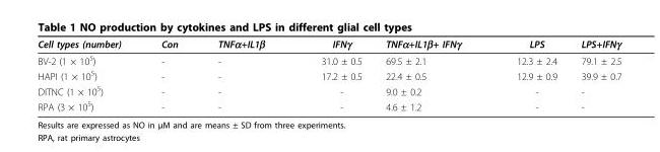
<table><thead><tr><td>Cell types (number)</td><td>Con</td><td>TNFα+IL1β</td><td>IFNγ</td><td>TNFα+IL1β+ IFNγ</td><td>LPS</td><td>LPS+IFNγ</td></tr></thead><tbody><tr><td>BV-2 (1 × 10<sup>5</sup>)</td><td>-</td><td>-</td><td>31.0 ± 0.5</td><td>69.5 ± 2.1</td><td>12.3 ± 2.4</td><td>79.1 ± 2.5</td></tr><tr><td>HAPI (1 × 10<sup>5</sup>)</td><td>-</td><td>-</td><td>17.2 ± 0.5</td><td>22.4 ± 0.5</td><td>12.9 ± 0.9</td><td>39.9 ± 0.7</td></tr><tr><td>DITNC (1 × 10<sup>5</sup>)</td><td>-</td><td>-</td><td>-</td><td>9.0 ± 0.2</td><td>-</td><td>-</td></tr><tr><td>RPA (3 × 10<sup>5</sup>)</td><td>-</td><td>-</td><td>-</td><td>4.6 ± 1.2</td><td>-</td><td>-</td></tr></tbody></table>